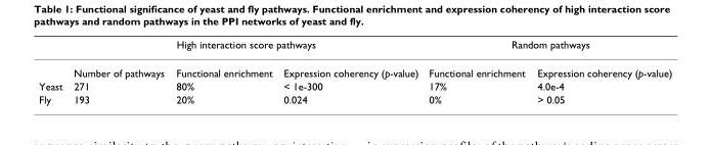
<table><thead><tr><td rowspan="2"></td><td colspan="3">High interaction score pathways</td><td colspan="2">Random pathways</td></tr><tr><td>Number of pathways</td><td>Functional enrichment</td><td>Expression coherency (p-value)</td><td>Functional enrichment</td><td>Expression coherency (p-value)</td></tr></thead><tbody><tr><td>Yeast</td><td>271</td><td>80%</td><td>&lt; 1e-300</td><td>17%</td><td>4.0e-4</td></tr><tr><td>Fly</td><td>193</td><td>20%</td><td>0.024</td><td>0%</td><td>&gt; 0.05</td></tr></tbody></table>